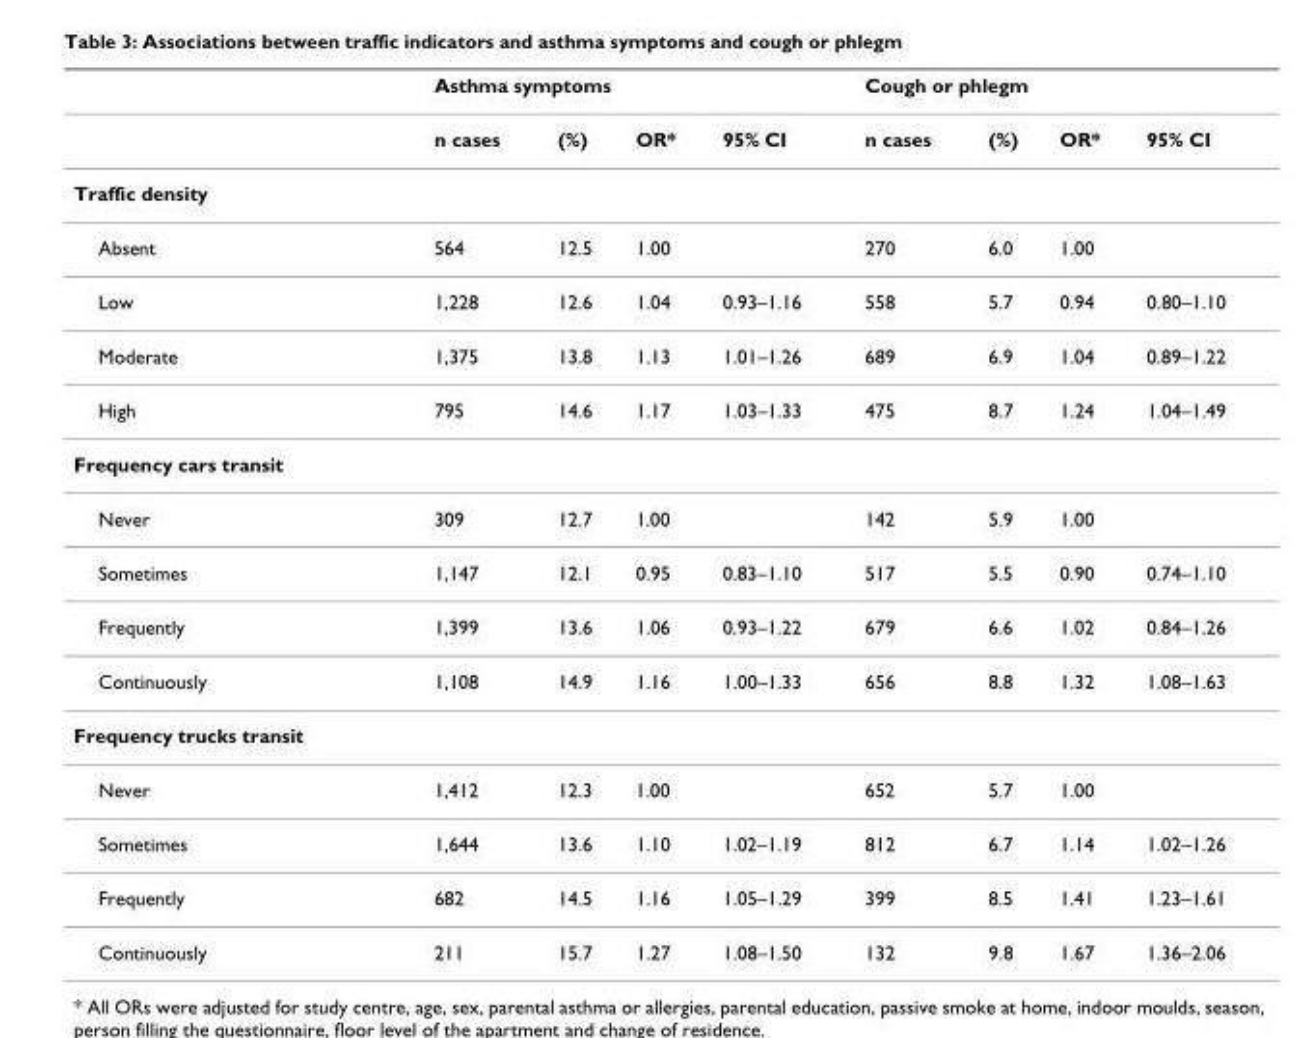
<table><thead><tr><td rowspan="2"></td><td colspan="4">Asthma symptoms</td><td colspan="4">Cough or phlegm</td></tr><tr><td>n cases</td><td>(%)</td><td>OR*</td><td>95% CI</td><td>n cases</td><td>(%)</td><td>OR*</td><td>95% CI</td></tr></thead><tbody><tr><td colspan="9">Traffic density</td></tr><tr><td>Absent</td><td>564</td><td>12.5</td><td>1.00</td><td></td><td>270</td><td>6.0</td><td>1.00</td><td></td></tr><tr><td>Low</td><td>1,228</td><td>12.6</td><td>1.04</td><td>0.93–1.16</td><td>558</td><td>5.7</td><td>0.94</td><td>0.80–1.10</td></tr><tr><td>Moderate</td><td>1,375</td><td>13.8</td><td>1.13</td><td>1.01–1.26</td><td>689</td><td>6.9</td><td>1.04</td><td>0.89–1.22</td></tr><tr><td>High</td><td>795</td><td>14.6</td><td>1.17</td><td>1.03–1.33</td><td>475</td><td>8.7</td><td>1.24</td><td>1.04–1.49</td></tr><tr><td colspan="9">Frequency cars transit</td></tr><tr><td>Never</td><td>309</td><td>12.7</td><td>1.00</td><td></td><td>142</td><td>5.9</td><td>1.00</td><td></td></tr><tr><td>Sometimes</td><td>1,147</td><td>12.1</td><td>0.95</td><td>0.83–1.10</td><td>517</td><td>5.5</td><td>0.90</td><td>0.74–1.10</td></tr><tr><td>Frequently</td><td>1,399</td><td>13.6</td><td>1.06</td><td>0.93–1.22</td><td>679</td><td>6.6</td><td>1.02</td><td>0.84–1.26</td></tr><tr><td>Continuously</td><td>1,108</td><td>14.9</td><td>1.16</td><td>1.00–1.33</td><td>656</td><td>8.8</td><td>1.32</td><td>1.08–1.63</td></tr><tr><td colspan="9">Frequency trucks transit</td></tr><tr><td>Never</td><td>1,412</td><td>12.3</td><td>1.00</td><td></td><td>652</td><td>5.7</td><td>1.00</td><td></td></tr><tr><td>Sometimes</td><td>1,644</td><td>13.6</td><td>1.10</td><td>1.02–1.19</td><td>812</td><td>6.7</td><td>1.14</td><td>1.02–1.26</td></tr><tr><td>Frequently</td><td>682</td><td>14.5</td><td>1.16</td><td>1.05–1.29</td><td>399</td><td>8.5</td><td>1.41</td><td>1.23–1.61</td></tr><tr><td>Continuously</td><td>211</td><td>15.7</td><td>1.27</td><td>1.08–1.50</td><td>132</td><td>9.8</td><td>1.67</td><td>1.36–2.06</td></tr></tbody></table>